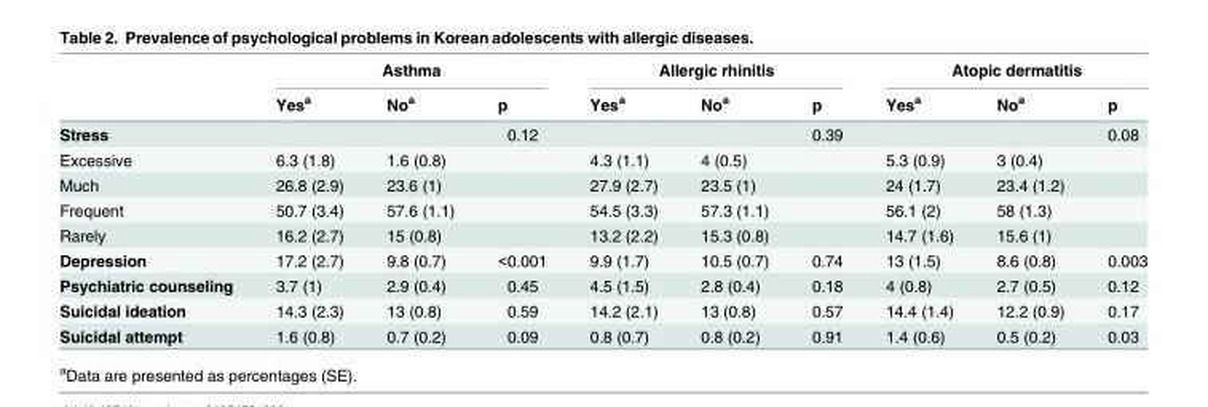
<table><thead><tr><td rowspan="2"></td><td colspan="3">Asthma</td><td colspan="3">Allergic rhinitis</td><td colspan="3">Atopic dermatitis</td></tr><tr><td>Yes<sup>a</sup></td><td>No<sup>a</sup></td><td>p</td><td>Yes<sup>a</sup></td><td>No<sup>a</sup></td><td>p</td><td>Yes<sup>a</sup></td><td>No<sup>a</sup></td><td>p</td></tr></thead><tbody><tr><td>Stress</td><td></td><td></td><td>0.12</td><td></td><td></td><td>0.39</td><td></td><td></td><td>0.08</td></tr><tr><td>Excessive</td><td>6.3 (1.8)</td><td>1.6 (0.8)</td><td></td><td>4.3 (1.1)</td><td>4 (0.5)</td><td></td><td>5.3 (0.9)</td><td>3 (0.4)</td><td></td></tr><tr><td>Much</td><td>26.8 (2.9)</td><td>23.6 (1)</td><td></td><td>27.9 (2.7)</td><td>23.5 (1)</td><td></td><td>24 (1.7)</td><td>23.4 (1.2)</td><td></td></tr><tr><td>Frequent</td><td>50.7 (3.4)</td><td>57.6 (1.1)</td><td></td><td>54.5 (3.3)</td><td>57.3 (1.1)</td><td></td><td>56.1 (2)</td><td>58 (1.3)</td><td></td></tr><tr><td>Rarely</td><td>16.2 (2.7)</td><td>15 (0.8)</td><td></td><td>13.2 (2.2)</td><td>15.3 (0.8)</td><td></td><td>14.7 (1.6)</td><td>15.6 (1)</td><td></td></tr><tr><td>Depression</td><td>17.2 (2.7)</td><td>9.8 (0.7)</td><td>&lt;0.001</td><td>9.9 (1.7)</td><td>10.5 (0.7)</td><td>0.74</td><td>13 (1.5)</td><td>8.6 (0.8)</td><td>0.003</td></tr><tr><td>Psychiatric counseling</td><td>3.7 (1)</td><td>2.9 (0.4)</td><td>0.45</td><td>4.5 (1.5)</td><td>2.8 (0.4)</td><td>0.18</td><td>4 (0.8)</td><td>2.7 (0.5)</td><td>0.12</td></tr><tr><td>Suicidal ideation</td><td>14.3 (2.3)</td><td>13 (0.8)</td><td>0.59</td><td>14.2 (2.1)</td><td>13 (0.8)</td><td>0.57</td><td>14.4 (1.4)</td><td>12.2 (0.9)</td><td>0.17</td></tr><tr><td>Suicidal attempt</td><td>1.6 (0.8)</td><td>0.7 (0.2)</td><td>0.09</td><td>0.8 (0.7)</td><td>0.8 (0.2)</td><td>0.91</td><td>1.4 (0.6)</td><td>0.5 (0.2)</td><td>0.03</td></tr></tbody></table>